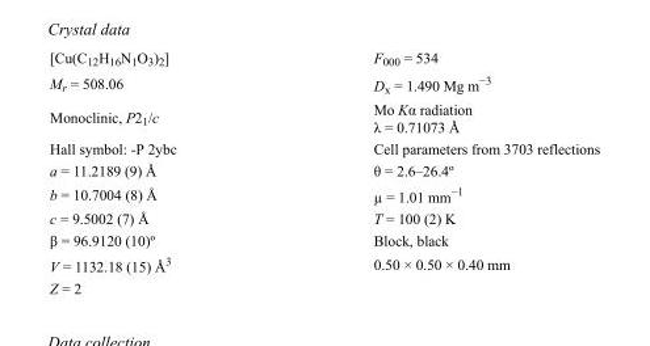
<table><tbody><tr><td>[Cu(C<sub>12</sub>H<sub>16</sub>N<sub>1</sub>O<sub>3</sub>)<sub>2</sub>]</td><td>F<sub>000</sub> = 534</td></tr><tr><td>M<sub>r</sub> = 508.06</td><td>D<sub>x</sub> = 1.490 Mg m<sup>−3</sup></td></tr><tr><td>Monoclinic, P2<sub>1</sub>/c</td><td>Mo Kα radiation λ = 0.71073 Å</td></tr><tr><td>Hall symbol: -P 2ybc</td><td>Cell parameters from 3703 reflections</td></tr><tr><td>a = 11.2189 (9) Å</td><td>θ = 2.6–26.4º</td></tr><tr><td>b = 10.7004 (8) Å</td><td>µ = 1.01 mm<sup>−1</sup></td></tr><tr><td>c = 9.5002 (7) Å</td><td>T = 100 (2) K</td></tr><tr><td>β = 96.9120 (10)º</td><td>Block, black</td></tr><tr><td>V = 1132.18 (15) Å<sup>3</sup></td><td>0.50 × 0.50 × 0.40 mm</td></tr><tr><td>Z = 2</td><td></td></tr></tbody></table>